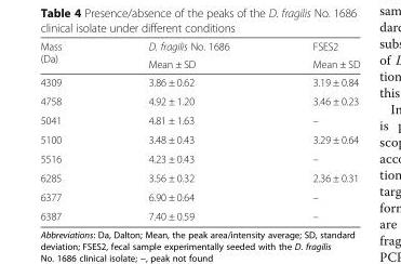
<table><thead><tr><td rowspan="2">Mass (Da)</td><td rowspan="2">D. fragilis No. 1686 Mean ± SD</td><td rowspan="2">FSES2 Mean ± SD</td></tr><tr></tr></thead><tbody><tr><td>4309</td><td>3.86 ± 0.62</td><td>3.19 ± 0.84</td></tr><tr><td>4758</td><td>4.92 ± 1.20</td><td>3.46 ± 0.23</td></tr><tr><td>5041</td><td>4.81 ± 1.63</td><td>–</td></tr><tr><td>5100</td><td>3.48 ± 0.43</td><td>3.29 ± 0.64</td></tr><tr><td>5516</td><td>4.23 ± 0.43</td><td>–</td></tr><tr><td>6285</td><td>3.56 ± 0.32</td><td>2.36 ± 0.31</td></tr><tr><td>6377</td><td>6.90 ± 0.64</td><td>–</td></tr><tr><td>6387</td><td>7.40 ± 0.59</td><td>–</td></tr></tbody></table>